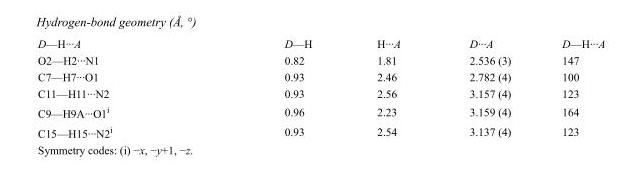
<table><tbody><tr><td>D—H···A</td><td>D—H</td><td>H···A</td><td>D···A</td><td>D—H···A</td></tr><tr><td>O2—H2···N1</td><td>0.82</td><td>1.81</td><td>2.536 (3)</td><td>147</td></tr><tr><td>C7—H7···O1</td><td>0.93</td><td>2.46</td><td>2.782 (4)</td><td>100</td></tr><tr><td>C11—H11···N2</td><td>0.93</td><td>2.56</td><td>3.157 (4)</td><td>123</td></tr><tr><td>C9—H9A···O1<sup>i</sup></td><td>0.96</td><td>2.23</td><td>3.159 (4)</td><td>164</td></tr><tr><td>C15—H15···N2<sup>i</sup></td><td>0.93</td><td>2.54</td><td>3.137 (4)</td><td>123</td></tr></tbody></table>